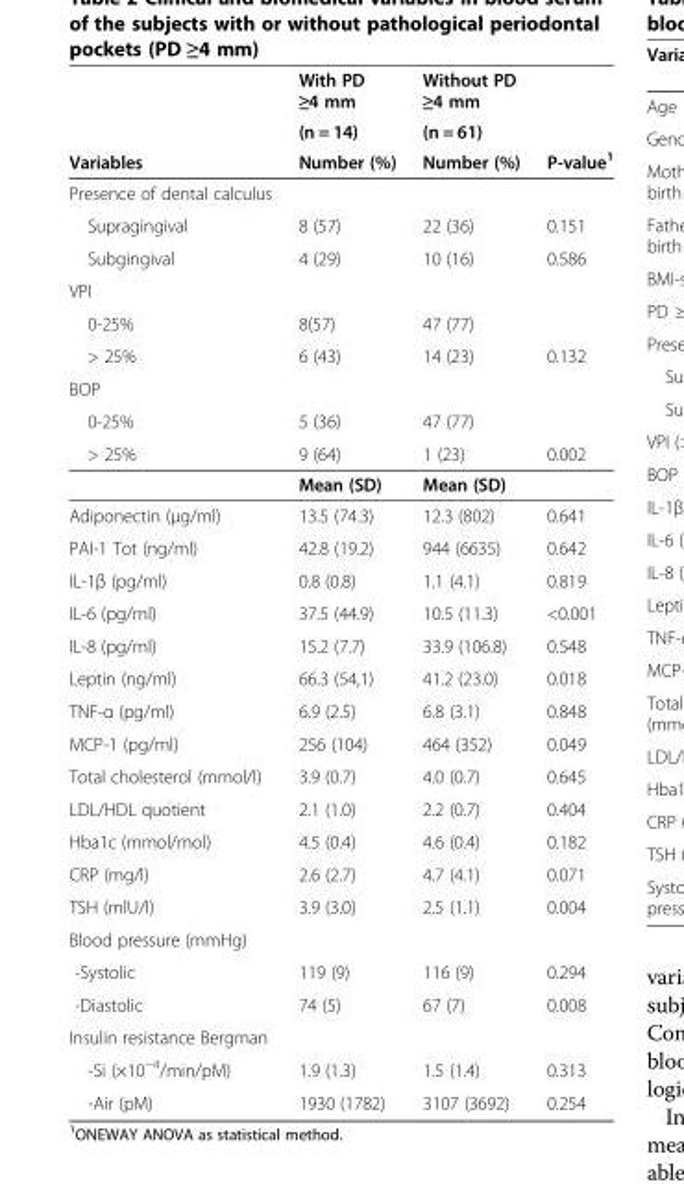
<table><thead><tr><td rowspan="3">Variables</td><td rowspan="3">With PD ≥4 mm (n = 14) Number (%)</td><td rowspan="3">Without PD ≥4 mm (n = 61) Number (%)</td><td rowspan="3">P-value<sup>1</sup></td></tr><tr></tr><tr></tr></thead><tbody><tr><td colspan="4">Presence of dental calculus</td></tr><tr><td>Supragingival</td><td>8 (57)</td><td>22 (36)</td><td>0.151</td></tr><tr><td>Subgingival</td><td>4 (29)</td><td>10 (16)</td><td>0.586</td></tr><tr><td colspan="4">VPI</td></tr><tr><td>0-25%</td><td>8(57)</td><td>47 (77)</td><td></td></tr><tr><td>&gt; 25%</td><td>6 (43)</td><td>14 (23)</td><td>0.132</td></tr><tr><td colspan="4">BOP</td></tr><tr><td>0-25%</td><td>5 (36)</td><td>47 (77)</td><td></td></tr><tr><td rowspan="2">&gt; 25%</td><td>9 (64)</td><td>1 (23)</td><td>0.002</td></tr><tr><td>Mean (SD)</td><td>Mean (SD)</td><td></td></tr><tr><td>Adiponectin (μg/ml)</td><td>13.5 (74.3)</td><td>12.3 (802)</td><td>0.641</td></tr><tr><td>PAI-1 Tot (ng/ml)</td><td>42.8 (19.2)</td><td>944 (6635)</td><td>0.642</td></tr><tr><td>IL-1β (pg/ml)</td><td>0.8 (0.8)</td><td>1.1 (4.1)</td><td>0.819</td></tr><tr><td>IL-6 (pg/ml)</td><td>37.5 (44.9)</td><td>10.5 (11.3)</td><td>&lt;0.001</td></tr><tr><td>IL-8 (pg/ml)</td><td>15.2 (7.7)</td><td>33.9 (106.8)</td><td>0.548</td></tr><tr><td>Leptin (ng/ml)</td><td>66.3 (54,1)</td><td>41.2 (23.0)</td><td>0.018</td></tr><tr><td>TNF-α (pg/ml)</td><td>6.9 (2.5)</td><td>6.8 (3.1)</td><td>0.848</td></tr><tr><td>MCP-1 (pg/ml)</td><td>256 (104)</td><td>464 (352)</td><td>0.049</td></tr><tr><td>Total cholesterol (mmol/l)</td><td>3.9 (0.7)</td><td>4.0 (0.7)</td><td>0.645</td></tr><tr><td>LDL/HDL quotient</td><td>2.1 (1.0)</td><td>2.2 (0.7)</td><td>0.404</td></tr><tr><td>Hba1c (mmol/mol)</td><td>4.5 (0.4)</td><td>4.6 (0.4)</td><td>0.182</td></tr><tr><td>CRP (mg/l)</td><td>2.6 (2.7)</td><td>4.7 (4.1)</td><td>0.071</td></tr><tr><td>TSH (mlU/l)</td><td>3.9 (3.0)</td><td>2.5 (1.1)</td><td>0.004</td></tr><tr><td colspan="4">Blood pressure (mmHg)</td></tr><tr><td>-Systolic</td><td>119 (9)</td><td>116 (9)</td><td>0.294</td></tr><tr><td>-Diastolic</td><td>74 (5)</td><td>67 (7)</td><td>0.008</td></tr><tr><td colspan="4">Insulin resistance Bergman</td></tr><tr><td>-Si (×10<sup>−4</sup>/min/pM)</td><td>1.9 (1.3)</td><td>1.5 (1.4)</td><td>0.313</td></tr><tr><td>-Air (pM)</td><td>1930 (1782)</td><td>3107 (3692)</td><td>0.254</td></tr></tbody></table>